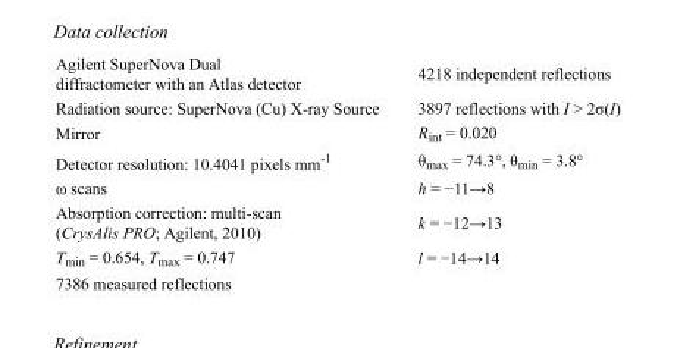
<table><tbody><tr><td>Agilent SuperNova Dual diffractometer with an Atlas detector</td><td>4218 independent reflections</td></tr><tr><td>Radiation source: SuperNova (Cu) X-ray Source</td><td>3897 reflections with I &gt; 2σ(I)</td></tr><tr><td>Mirror</td><td>R<sub>int</sub> = 0.020</td></tr><tr><td>Detector resolution: 10.4041 pixels mm<sup>-1</sup></td><td>θ<sub>max</sub> = 74.3°, θ<sub>min</sub> = 3.8°</td></tr><tr><td>ω scans</td><td>h = −11→8</td></tr><tr><td>Absorption correction: multi-scan (CrysAlis PRO; Agilent, 2010)</td><td>k = −12→13</td></tr><tr><td>T<sub>min</sub> = 0.654, T<sub>max</sub> = 0.747</td><td>l = −14→14</td></tr><tr><td>7386 measured reflections</td><td></td></tr></tbody></table>